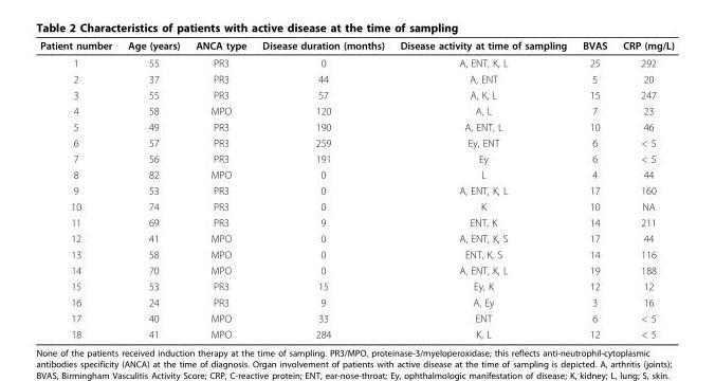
<table><thead><tr><td>Patient number</td><td>Age (years)</td><td>ANCA type</td><td>Disease duration (months)</td><td>Disease activity at time of sampling</td><td>BVAS</td><td>CRP (mg/L)</td></tr></thead><tbody><tr><td>1</td><td>55</td><td>PR3</td><td>0</td><td>A, ENT, K, L</td><td>25</td><td>292</td></tr><tr><td>2</td><td>37</td><td>PR3</td><td>44</td><td>A, ENT</td><td>5</td><td>20</td></tr><tr><td>3</td><td>55</td><td>PR3</td><td>57</td><td>A, K, L</td><td>15</td><td>247</td></tr><tr><td>4</td><td>58</td><td>MPO</td><td>120</td><td>A, L</td><td>7</td><td>23</td></tr><tr><td>5</td><td>49</td><td>PR3</td><td>190</td><td>A, ENT, L</td><td>10</td><td>46</td></tr><tr><td>6</td><td>57</td><td>PR3</td><td>259</td><td>Ey, ENT</td><td>6</td><td>&lt; 5</td></tr><tr><td>7</td><td>56</td><td>PR3</td><td>191</td><td>Ey</td><td>6</td><td>&lt; 5</td></tr><tr><td>8</td><td>82</td><td>MPO</td><td>0</td><td>L</td><td>4</td><td>44</td></tr><tr><td>9</td><td>53</td><td>PR3</td><td>0</td><td>A, ENT, K, L</td><td>17</td><td>160</td></tr><tr><td>10</td><td>74</td><td>PR3</td><td>0</td><td>K</td><td>10</td><td>NA</td></tr><tr><td>11</td><td>69</td><td>PR3</td><td>9</td><td>ENT, K</td><td>14</td><td>211</td></tr><tr><td>12</td><td>41</td><td>MPO</td><td>0</td><td>A, ENT, K, S</td><td>17</td><td>44</td></tr><tr><td>13</td><td>58</td><td>MPO</td><td>0</td><td>ENT, K, S</td><td>14</td><td>116</td></tr><tr><td>14</td><td>70</td><td>MPO</td><td>0</td><td>A, ENT, K, L</td><td>19</td><td>188</td></tr><tr><td>15</td><td>53</td><td>PR3</td><td>15</td><td>Ey, K</td><td>12</td><td>12</td></tr><tr><td>16</td><td>24</td><td>PR3</td><td>9</td><td>A, Ey</td><td>3</td><td>16</td></tr><tr><td>17</td><td>40</td><td>MPO</td><td>33</td><td>ENT</td><td>6</td><td>&lt; 5</td></tr><tr><td>18</td><td>41</td><td>MPO</td><td>284</td><td>K, L</td><td>12</td><td>&lt; 5</td></tr></tbody></table>